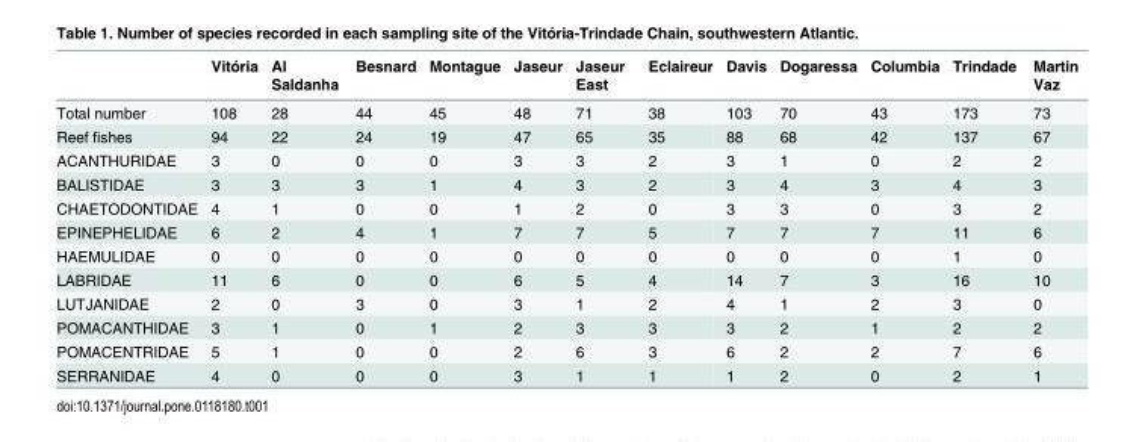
<table><thead><tr><td></td><td>Vitória</td><td>Al Saldanha</td><td>Besnard</td><td>Montague</td><td>Jaseur</td><td>Jaseur East</td><td>Eclaireur</td><td>Davis</td><td>Dogaressa</td><td>Columbia</td><td>Trindade</td><td>Martin Vaz</td></tr></thead><tbody><tr><td>Total number</td><td>108</td><td>28</td><td>44</td><td>45</td><td>48</td><td>71</td><td>38</td><td>103</td><td>70</td><td>43</td><td>173</td><td>73</td></tr><tr><td>Reef fishes</td><td>94</td><td>22</td><td>24</td><td>19</td><td>47</td><td>65</td><td>35</td><td>88</td><td>68</td><td>42</td><td>137</td><td>67</td></tr><tr><td>ACANTHURIDAE</td><td>3</td><td>0</td><td>0</td><td>0</td><td>3</td><td>3</td><td>2</td><td>3</td><td>1</td><td>0</td><td>2</td><td>2</td></tr><tr><td>BALISTIDAE</td><td>3</td><td>3</td><td>3</td><td>1</td><td>4</td><td>3</td><td>2</td><td>3</td><td>4</td><td>3</td><td>4</td><td>3</td></tr><tr><td>CHAETODONTIDAE</td><td>4</td><td>1</td><td>0</td><td>0</td><td>1</td><td>2</td><td>0</td><td>3</td><td>3</td><td>0</td><td>3</td><td>2</td></tr><tr><td>EPINEPHELIDAE</td><td>6</td><td>2</td><td>4</td><td>1</td><td>7</td><td>7</td><td>5</td><td>7</td><td>7</td><td>7</td><td>11</td><td>6</td></tr><tr><td>HAEMULIDAE</td><td>0</td><td>0</td><td>0</td><td>0</td><td>0</td><td>0</td><td>0</td><td>0</td><td>0</td><td>0</td><td>1</td><td>0</td></tr><tr><td>LABRIDAE</td><td>11</td><td>6</td><td>0</td><td>0</td><td>6</td><td>5</td><td>4</td><td>14</td><td>7</td><td>3</td><td>16</td><td>10</td></tr><tr><td>LUTJANIDAE</td><td>2</td><td>0</td><td>3</td><td>0</td><td>3</td><td>1</td><td>2</td><td>4</td><td>1</td><td>2</td><td>3</td><td>0</td></tr><tr><td>POMACANTHIDAE</td><td>3</td><td>1</td><td>0</td><td>1</td><td>2</td><td>3</td><td>3</td><td>3</td><td>2</td><td>1</td><td>2</td><td>2</td></tr><tr><td>POMACENTRIDAE</td><td>5</td><td>1</td><td>0</td><td>0</td><td>2</td><td>6</td><td>3</td><td>6</td><td>2</td><td>2</td><td>7</td><td>6</td></tr><tr><td>SERRANIDAE</td><td>4</td><td>0</td><td>0</td><td>0</td><td>3</td><td>1</td><td>1</td><td>1</td><td>2</td><td>0</td><td>2</td><td>1</td></tr></tbody></table>